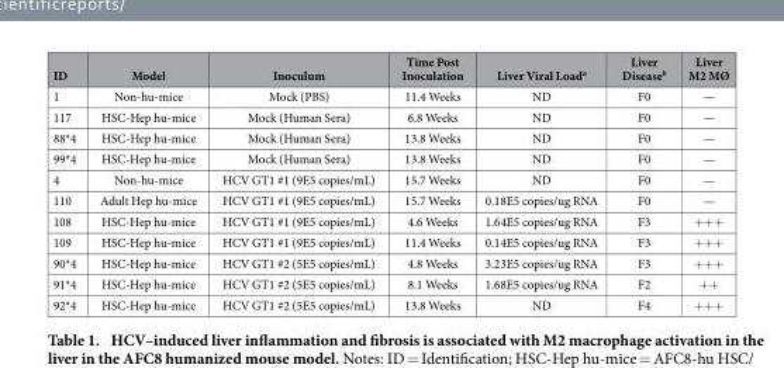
<table><thead><tr><td>ID</td><td>Model</td><td>Inoculum</td><td>Time Post Inoculation</td><td>Liver Viral Load<sup>a</sup></td><td>Liver Disease<sup>b</sup></td><td>Liver M2 MØ</td></tr></thead><tbody><tr><td>1</td><td>Non-hu-mice</td><td>Mock (PBS)</td><td>11.4 Weeks</td><td>ND</td><td>F0</td><td>—</td></tr><tr><td>117</td><td>HSC-Hep hu-mice</td><td>Mock (Human Sera)</td><td>6.8 Weeks</td><td>ND</td><td>F0</td><td>—</td></tr><tr><td>88*4</td><td>HSC-Hep hu-mice</td><td>Mock (Human Sera)</td><td>13.8 Weeks</td><td>ND</td><td>F0</td><td>—</td></tr><tr><td>99*4</td><td>HSC-Hep hu-mice</td><td>Mock (Human Sera)</td><td>13.8 Weeks</td><td>ND</td><td>F0</td><td>—</td></tr><tr><td>4</td><td>Non-hu-mice</td><td>HCV GT1 #1 (9E5 copies/mL)</td><td>15.7 Weeks</td><td>ND</td><td>F0</td><td>—</td></tr><tr><td>110</td><td>Adult Hep hu-mice</td><td>HCV GT1 #1 (9E5 copies/mL)</td><td>15.7 Weeks</td><td>0.18E5 copies/ug RNA</td><td>F0</td><td>—</td></tr><tr><td>108</td><td>HSC-Hep hu-mice</td><td>HCV GT1 #1 (9E5 copies/mL)</td><td>4.6 Weeks</td><td>1.64E5 copies/ug RNA</td><td>F3</td><td>+ + +</td></tr><tr><td>109</td><td>HSC-Hep hu-mice</td><td>HCV GT1 #1 (9E5 copies/mL)</td><td>11.4 Weeks</td><td>0.14E5 copies/ug RNA</td><td>F3</td><td>+ + +</td></tr><tr><td>90*4</td><td>HSC-Hep hu-mice</td><td>HCV GT1 #2 (5E5 copies/mL)</td><td>4.8 Weeks</td><td>3.23E5 copies/ug RNA</td><td>F3</td><td>+ + +</td></tr><tr><td>91*4</td><td>HSC-Hep hu-mice</td><td>HCV GT1 #2 (5E5 copies/mL)</td><td>8.1 Weeks</td><td>1.68E5 copies/ug RNA</td><td>F2</td><td>+ +</td></tr><tr><td>92*4</td><td>HSC-Hep hu-mice</td><td>HCV GT1 #2 (5E5 copies/mL)</td><td>13.8 Weeks</td><td>ND</td><td>F4</td><td>+ + +</td></tr></tbody></table>